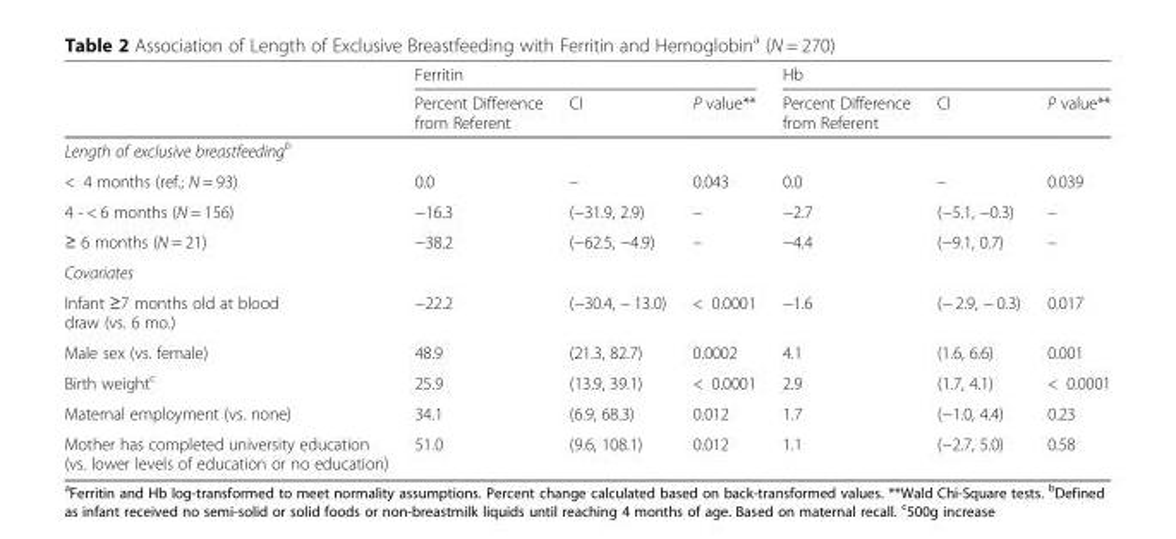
<table><thead><tr><td rowspan="2"></td><td colspan="3">Ferritin</td><td colspan="3">Hb</td></tr><tr><td>Percent Difference from Referent</td><td>CI</td><td>P value**</td><td>Percent Difference from Referent</td><td>CI</td><td>P value**</td></tr></thead><tbody><tr><td colspan="7">Length of exclusive breastfeeding<sup>b</sup></td></tr><tr><td>&lt; 4 months (ref.; N = 93)</td><td>0.0</td><td>–</td><td>0.043</td><td>0.0</td><td>–</td><td>0.039</td></tr><tr><td>4 - &lt; 6 months (N = 156)</td><td>−16.3</td><td>(−31.9, 2.9)</td><td>–</td><td>−2.7</td><td>(−5.1, −0.3)</td><td>–</td></tr><tr><td>≥ 6 months (N = 21)</td><td>−38.2</td><td>(−62.5, −4.9)</td><td>–</td><td>−4.4</td><td>(−9.1, 0.7)</td><td>–</td></tr><tr><td colspan="7">Covariates</td></tr><tr><td>Infant ≥7 months old at blood draw (vs. 6 mo.)</td><td>−22.2</td><td>(−30.4, − 13.0)</td><td>&lt; 0.0001</td><td>−1.6</td><td>(− 2.9, − 0.3)</td><td>0.017</td></tr><tr><td>Male sex (vs. female)</td><td>48.9</td><td>(21.3, 82.7)</td><td>0.0002</td><td>4.1</td><td>(1.6, 6.6)</td><td>0.001</td></tr><tr><td>Birth weight<sup>c</sup></td><td>25.9</td><td>(13.9, 39.1)</td><td>&lt; 0.0001</td><td>2.9</td><td>(1.7, 4.1)</td><td>&lt; 0.0001</td></tr><tr><td>Maternal employment (vs. none)</td><td>34.1</td><td>(6.9, 68.3)</td><td>0.012</td><td>1.7</td><td>(−1.0, 4.4)</td><td>0.23</td></tr><tr><td>Mother has completed university education (vs. lower levels of education or no education)</td><td>51.0</td><td>(9.6, 108.1)</td><td>0.012</td><td>1.1</td><td>(−2.7, 5.0)</td><td>0.58</td></tr></tbody></table>